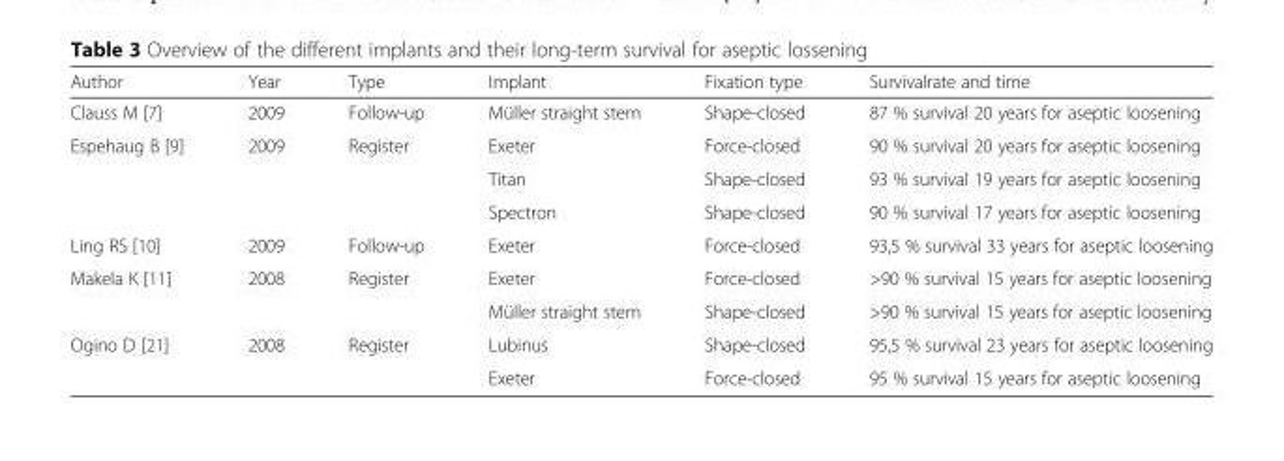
<table><thead><tr><td>Author</td><td>Year</td><td>Type</td><td>Implant</td><td>Fixation type</td><td>Survivalrate and time</td></tr></thead><tbody><tr><td>Clauss M [7]</td><td>2009</td><td>Follow-up</td><td>Müller straight stem</td><td>Shape-closed</td><td>87 % survival 20 years for aseptic loosening</td></tr><tr><td rowspan="3">Espehaug B [9]</td><td rowspan="3">2009</td><td rowspan="3">Register</td><td>Exeter</td><td>Force-closed</td><td>90 % survival 20 years for aseptic loosening</td></tr><tr><td>Titan</td><td>Shape-closed</td><td>93 % survival 19 years for aseptic loosening</td></tr><tr><td>Spectron</td><td>Shape-closed</td><td>90 % survival 17 years for aseptic loosening</td></tr><tr><td>Ling RS [10]</td><td>2009</td><td>Follow-up</td><td>Exeter</td><td>Force-closed</td><td>93,5 % survival 33 years for aseptic loosening</td></tr><tr><td rowspan="2">Makela K [11]</td><td rowspan="2">2008</td><td rowspan="2">Register</td><td>Exeter</td><td>Force-closed</td><td>&gt;90 % survival 15 years for aseptic loosening</td></tr><tr><td>Müller straight stem</td><td>Shape-closed</td><td>&gt;90 % survival 15 years for aseptic loosening</td></tr><tr><td rowspan="2">Ogino D [21]</td><td rowspan="2">2008</td><td rowspan="2">Register</td><td>Lubinus</td><td>Shape-closed</td><td>95,5 % survival 23 years for aseptic loosening</td></tr><tr><td>Exeter</td><td>Force-closed</td><td>95 % survival 15 years for aseptic loosening</td></tr></tbody></table>